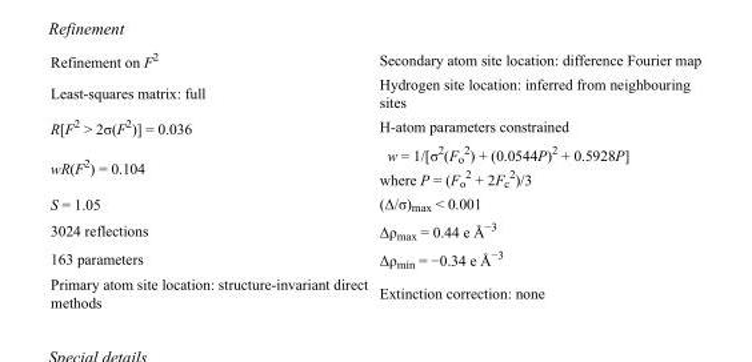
<table><tbody><tr><td>Refinement on F<sup>2</sup></td><td>Secondary atom site location: difference Fourier map</td></tr><tr><td>Least-squares matrix: full</td><td>Hydrogen site location: inferred from neighbouring sites</td></tr><tr><td>R[F<sup>2</sup> &gt; 2σ(F<sup>2</sup>)] = 0.036</td><td>H-atom parameters constrained</td></tr><tr><td>wR(F<sup>2</sup>) = 0.104</td><td>w = 1/[σ<sup>2</sup>(F<sub>o</sub> <sup>2</sup>) + (0.0544P)<sup>2</sup> + 0.5928P] where P = (F<sub>o</sub> <sup>2</sup> + 2F<sub>c</sub> <sup>2</sup>)/3</td></tr><tr><td>S = 1.05</td><td>(Δ/σ)<sub>max</sub> &lt; 0.001</td></tr><tr><td>3024 reflections</td><td>Δρ<sub>max</sub> = 0.44 e Å<sup>−3</sup></td></tr><tr><td>163 parameters</td><td>Δρ<sub>min</sub> = −0.34 e Å<sup>−3</sup></td></tr><tr><td>Primary atom site location: structure-invariant direct methods</td><td>Extinction correction: none</td></tr></tbody></table>